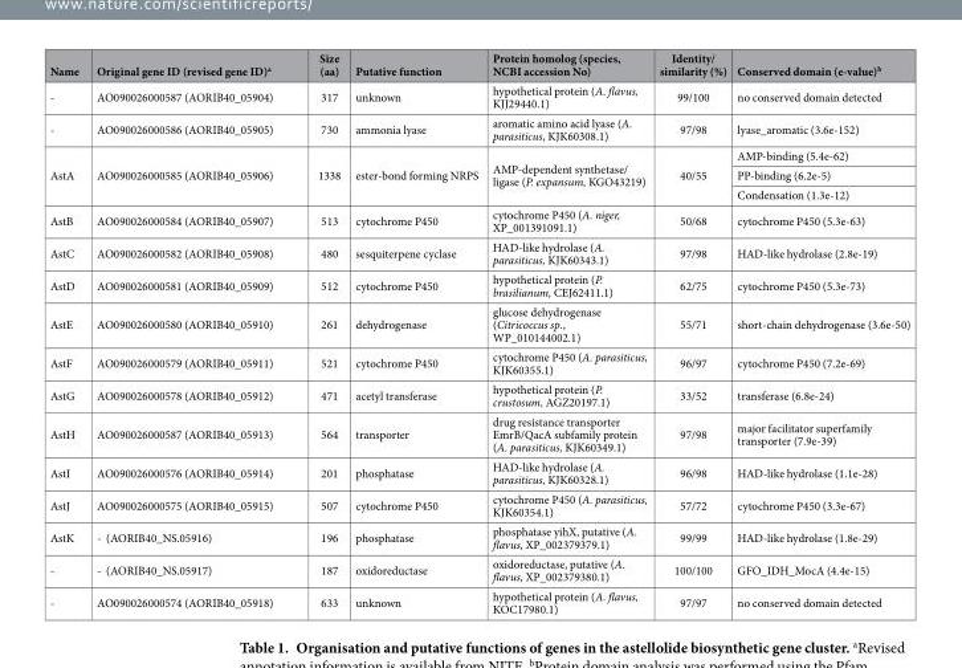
<table><thead><tr><td>Name</td><td>Original gene ID (revised gene ID)<sup>a</sup></td><td>Size (aa)</td><td>Putative function</td><td>Protein homolog (species, NCBI accession No)</td><td>Identity/ similarity (%)</td><td>Conserved domain (e-value)<sup>b</sup></td></tr></thead><tbody><tr><td>-</td><td>AO090026000587 (AORIB40_05904)</td><td>317</td><td>unknown</td><td>hypothetical protein (A. flavus, KJJ29440.1)</td><td>99/100</td><td>no conserved domain detected</td></tr><tr><td>-</td><td>AO090026000586 (AORIB40_05905)</td><td>730</td><td>ammonia lyase</td><td>aromatic amino acid lyase (A. parasiticus, KJK60308.1)</td><td>97/98</td><td>lyase_aromatic (3.6e-152)</td></tr><tr><td rowspan="3">AstA</td><td rowspan="3">AO090026000585 (AORIB40_05906)</td><td rowspan="3">1338</td><td rowspan="3">ester-bond forming NRPS</td><td rowspan="3">AMP-dependent synthetase/ ligase (P. expansum, KGO43219)</td><td rowspan="3">40/55</td><td>AMP-binding (5.4e-62)</td></tr><tr><td>PP-binding (6.2e-5)</td></tr><tr><td>Condensation (1.3e-12)</td></tr><tr><td>AstB</td><td>AO090026000584 (AORIB40_05907)</td><td>513</td><td>cytochrome P450</td><td>cytochrome P450 (A. niger, XP_001391091.1)</td><td>50/68</td><td>cytochrome P450 (5.3e-63)</td></tr><tr><td>AstC</td><td>AO090026000582 (AORIB40_05908)</td><td>480</td><td>sesquiterpene cyclase</td><td>HAD-like hydrolase (A. parasiticus, KJK60343.1)</td><td>97/98</td><td>HAD-like hydrolase (2.8e-19)</td></tr><tr><td>AstD</td><td>AO090026000581 (AORIB40_05909)</td><td>512</td><td>cytochrome P450</td><td>hypothetical protein (P. brasilianum, CEJ62411.1)</td><td>62/75</td><td>cytochrome P450 (5.3e-73)</td></tr><tr><td>AstE</td><td>AO090026000580 (AORIB40_05910)</td><td>261</td><td>dehydrogenase</td><td>glucose dehydrogenase (Citricoccus sp., WP_010144002.1)</td><td>55/71</td><td>short-chain dehydrogenase (3.6e-50)</td></tr><tr><td>AstF</td><td>AO090026000579 (AORIB40_05911)</td><td>521</td><td>cytochrome P450</td><td>cytochrome P450 (A. parasiticus, KJK60355.1)</td><td>96/97</td><td>cytochrome P450 (7.2e-69)</td></tr><tr><td>AstG</td><td>AO090026000578 (AORIB40_05912)</td><td>471</td><td>acetyl transferase</td><td>hypothetical protein (P. crustosum, AGZ20197.1)</td><td>33/52</td><td>transferase (6.8e-24)</td></tr><tr><td>AstH</td><td>AO090026000587 (AORIB40_05913)</td><td>564</td><td>transporter</td><td>drug resistance transporter EmrB/QacA subfamily protein (A. parasiticus, KJK60349.1)</td><td>97/98</td><td>major facilitator superfamily transporter (7.9e-39)</td></tr><tr><td>AstI</td><td>AO090026000576 (AORIB40_05914)</td><td>201</td><td>phosphatase</td><td>HAD-like hydrolase (A. parasiticus, KJK60328.1)</td><td>96/98</td><td>HAD-like hydrolase (1.1e-28)</td></tr><tr><td>AstJ</td><td>AO090026000575 (AORIB40_05915)</td><td>507</td><td>cytochrome P450</td><td>cytochrome P450 (A. parasiticus, KJK60354.1)</td><td>57/72</td><td>cytochrome P450 (3.3e-67)</td></tr><tr><td>AstK</td><td>- (AORIB40_NS.05916)</td><td>196</td><td>phosphatase</td><td>phosphatase yihX, putative (A. flavus, XP_002379379.1)</td><td>99/99</td><td>HAD-like hydrolase (1.8e-29)</td></tr><tr><td>-</td><td>- (AORIB40_NS.05917)</td><td>187</td><td>oxidoreductase</td><td>oxidoreductase, putative (A. flavus, XP_002379380.1)</td><td>100/100</td><td>GFO_IDH_MocA (4.4e-15)</td></tr><tr><td>-</td><td>AO090026000574 (AORIB40_05918)</td><td>633</td><td>unknown</td><td>hypothetical protein (A. flavus, KOC17980.1)</td><td>97/97</td><td>no conserved domain detected</td></tr></tbody></table>